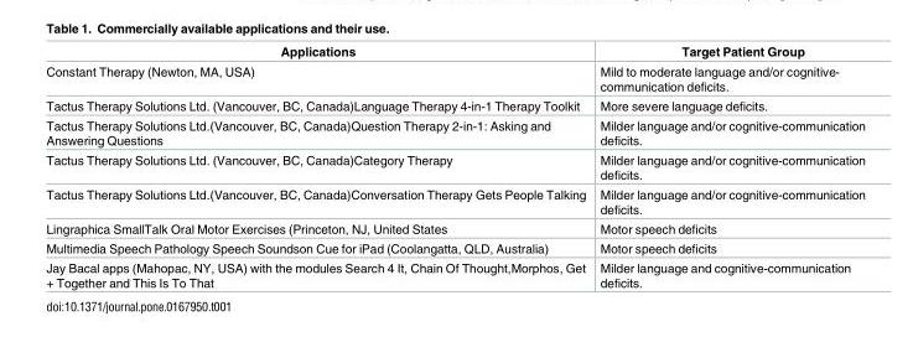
<table><thead><tr><td>Applications</td><td>Target Patient Group</td></tr></thead><tbody><tr><td>Constant Therapy (Newton, MA, USA)</td><td>Mild to moderate language and/or cognitive- communication deficits.</td></tr><tr><td>Tactus Therapy Solutions Ltd. (Vancouver, BC, Canada)Language Therapy 4-in-1 Therapy Toolkit</td><td>More severe language deficits.</td></tr><tr><td>Tactus Therapy Solutions Ltd.(Vancouver, BC, Canada)Question Therapy 2-in-1: Asking and Answering Questions</td><td>Milder language and/or cognitive-communication deficits.</td></tr><tr><td>Tactus Therapy Solutions Ltd. (Vancouver, BC, Canada)Category Therapy</td><td>Milder language and/or cognitive-communication deficits.</td></tr><tr><td>Tactus Therapy Solutions Ltd.(Vancouver, BC, Canada)Conversation Therapy Gets People Talking</td><td>Milder language and/or cognitive-communication deficits.</td></tr><tr><td>Lingraphica SmallTalk Oral Motor Exercises (Princeton, NJ, United States</td><td>Motor speech deficits</td></tr><tr><td>Multimedia Speech Pathology Speech Soundson Cue for iPad (Coolangatta, QLD, Australia)</td><td>Motor speech deficits</td></tr><tr><td>Jay Bacal apps (Mahopac, NY, USA) with the modules Search 4 It, Chain Of Thought,Morphos, Get + Together and This Is To That</td><td>Milder language and cognitive-communication deficits.</td></tr></tbody></table>